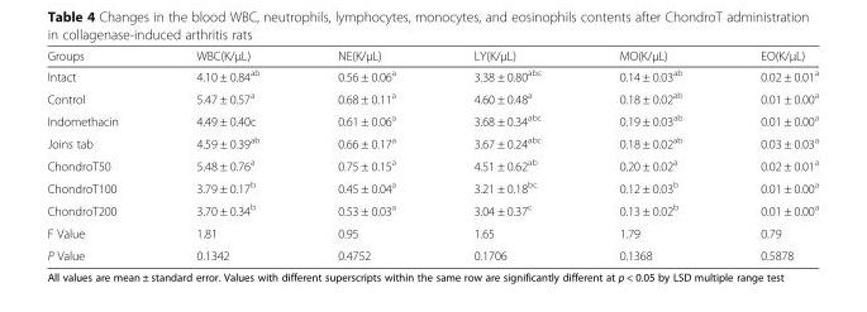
<table><thead><tr><td>Groups</td><td>WBC(K/μL)</td><td>NE(K/μL)</td><td>LY(K/μL)</td><td>MO(K/μL)</td><td>EO(K/μL)</td></tr></thead><tbody><tr><td>Intact</td><td>4.10 ± 0.84<sup>ab</sup></td><td>0.56 ± 0.06<sup>a</sup></td><td>3.38 ± 0.80<sup>abc</sup></td><td>0.14 ± 0.03<sup>ab</sup></td><td>0.02 ± 0.01<sup>a</sup></td></tr><tr><td>Control</td><td>5.47 ± 0.57<sup>a</sup></td><td>0.68 ± 0.11<sup>a</sup></td><td>4.60 ± 0.48<sup>a</sup></td><td>0.18 ± 0.02<sup>ab</sup></td><td>0.01 ± 0.00<sup>a</sup></td></tr><tr><td>Indomethacin</td><td>4.49 ± 0.40c</td><td>0.61 ± 0.06<sup>a</sup></td><td>3.68 ± 0.34<sup>abc</sup></td><td>0.19 ± 0.03<sup>ab</sup></td><td>0.01 ± 0.00<sup>a</sup></td></tr><tr><td>Joins tab</td><td>4.59 ± 0.39<sup>ab</sup></td><td>0.66 ± 0.17<sup>a</sup></td><td>3.67 ± 0.24<sup>abc</sup></td><td>0.18 ± 0.02<sup>ab</sup></td><td>0.03 ± 0.03<sup>a</sup></td></tr><tr><td>ChondroT50</td><td>5.48 ± 0.76<sup>a</sup></td><td>0.75 ± 0.15<sup>a</sup></td><td>4.51 ± 0.62<sup>ab</sup></td><td>0.20 ± 0.02<sup>a</sup></td><td>0.02 ± 0.01<sup>a</sup></td></tr><tr><td>ChondroT100</td><td>3.79 ± 0.17<sup>b</sup></td><td>0.45 ± 0.04<sup>a</sup></td><td>3.21 ± 0.18<sup>bc</sup></td><td>0.12 ± 0.03<sup>b</sup></td><td>0.01 ± 0.00<sup>a</sup></td></tr><tr><td>ChondroT200</td><td>3.70 ± 0.34<sup>b</sup></td><td>0.53 ± 0.03<sup>a</sup></td><td>3.04 ± 0.37<sup>c</sup></td><td>0.13 ± 0.02<sup>b</sup></td><td>0.01 ± 0.00<sup>a</sup></td></tr><tr><td>F Value</td><td>1.81</td><td>0.95</td><td>1.65</td><td>1.79</td><td>0.79</td></tr><tr><td>P Value</td><td>0.1342</td><td>0.4752</td><td>0.1706</td><td>0.1368</td><td>0.5878</td></tr></tbody></table>